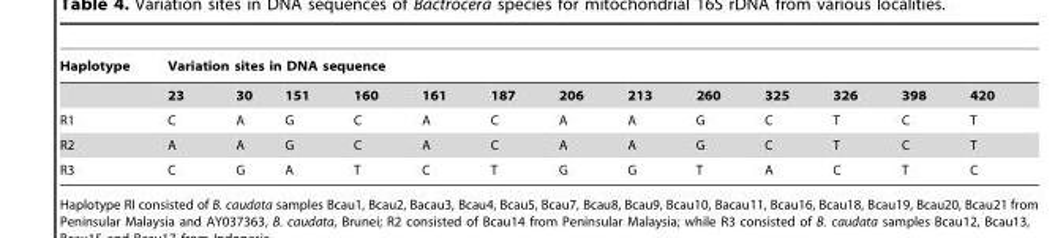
<table><thead><tr><td rowspan="2">Haplotype</td><td colspan="13">Variation sites in DNA sequence</td></tr><tr><td>23</td><td>30</td><td>151</td><td>160</td><td>161</td><td>187</td><td>206</td><td>213</td><td>260</td><td>325</td><td>326</td><td>398</td><td>420</td></tr></thead><tbody><tr><td>R1</td><td>C</td><td>A</td><td>G</td><td>C</td><td>A</td><td>C</td><td>A</td><td>A</td><td>G</td><td>C</td><td>T</td><td>C</td><td>T</td></tr><tr><td>R2</td><td>A</td><td>A</td><td>G</td><td>C</td><td>A</td><td>C</td><td>A</td><td>A</td><td>G</td><td>C</td><td>T</td><td>C</td><td>T</td></tr><tr><td>R3</td><td>C</td><td>G</td><td>A</td><td>T</td><td>C</td><td>T</td><td>G</td><td>G</td><td>T</td><td>A</td><td>C</td><td>T</td><td>C</td></tr></tbody></table>